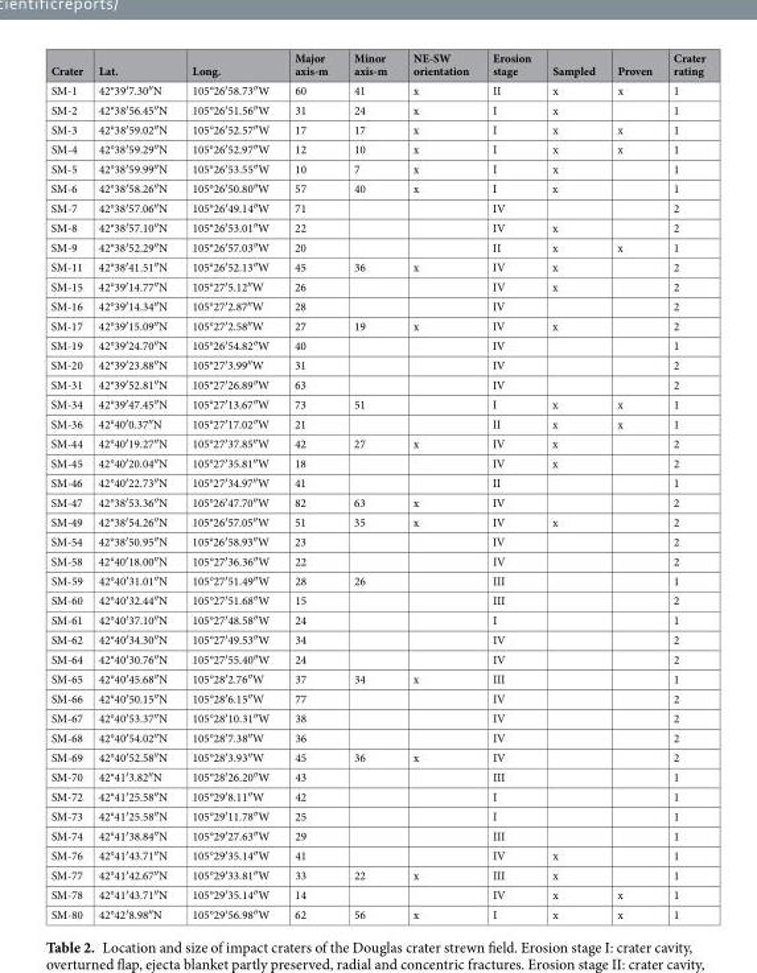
<table><thead><tr><td>Crater</td><td>Lat.</td><td>Long.</td><td>Major axis-m</td><td>Minor axis-m</td><td>NE-SW orientation</td><td>Erosion stage</td><td>Sampled</td><td>Proven</td><td>Crater rating</td></tr></thead><tbody><tr><td>SM-1</td><td>42°39′7.30″N</td><td>105°26′58.73″W</td><td>60</td><td>41</td><td>x</td><td>II</td><td>x</td><td>x</td><td>1</td></tr><tr><td>SM-2</td><td>42°38′56.45″N</td><td>105°26′51.56″W</td><td>31</td><td>24</td><td>x</td><td>I</td><td>x</td><td></td><td>1</td></tr><tr><td>SM-3</td><td>42°38′59.02″N</td><td>105°26′52.57″W</td><td>17</td><td>17</td><td>x</td><td>I</td><td>x</td><td>x</td><td>1</td></tr><tr><td>SM-4</td><td>42°38′59.29″N</td><td>105°26′52.97″W</td><td>12</td><td>10</td><td>x</td><td>I</td><td>x</td><td>x</td><td>1</td></tr><tr><td>SM-5</td><td>42°38′59.99″N</td><td>105°26′53.55″W</td><td>10</td><td>7</td><td>x</td><td>I</td><td>x</td><td></td><td>1</td></tr><tr><td>SM-6</td><td>42°38′58.26″N</td><td>105°26′50.80″W</td><td>57</td><td>40</td><td>x</td><td>I</td><td>x</td><td></td><td>1</td></tr><tr><td>SM-7</td><td>42°38′57.06″N</td><td>105°26′49.14″W</td><td>71</td><td></td><td></td><td>IV</td><td></td><td></td><td>2</td></tr><tr><td>SM-8</td><td>42°38′57.10″N</td><td>105°26′53.01″W</td><td>22</td><td></td><td></td><td>IV</td><td>x</td><td></td><td>2</td></tr><tr><td>SM-9</td><td>42°38′52.29″N</td><td>105°26′57.03″W</td><td>20</td><td></td><td></td><td>II</td><td>x</td><td>x</td><td>1</td></tr><tr><td>SM-11</td><td>42°38′41.51″N</td><td>105°26′52.13″W</td><td>45</td><td>36</td><td>x</td><td>IV</td><td>x</td><td></td><td>2</td></tr><tr><td>SM-15</td><td>42°39′14.77″N</td><td>105°27′5.12″W</td><td>26</td><td></td><td></td><td>IV</td><td>x</td><td></td><td>2</td></tr><tr><td>SM-16</td><td>42°39′14.34″N</td><td>105°27′2.87″W</td><td>28</td><td></td><td></td><td>IV</td><td></td><td></td><td>2</td></tr><tr><td>SM-17</td><td>42°39′15.09″N</td><td>105°27′2.58″W</td><td>27</td><td>19</td><td>x</td><td>IV</td><td>x</td><td></td><td>2</td></tr><tr><td>SM-19</td><td>42°39′24.70″N</td><td>105°26′54.82″W</td><td>40</td><td></td><td></td><td>IV</td><td></td><td></td><td>1</td></tr><tr><td>SM-20</td><td>42°39′23.88″N</td><td>105°27′3.99″W</td><td>31</td><td></td><td></td><td>IV</td><td></td><td></td><td>2</td></tr><tr><td>SM-31</td><td>42°39′52.81″N</td><td>105°27′26.89″W</td><td>63</td><td></td><td></td><td>IV</td><td></td><td></td><td>2</td></tr><tr><td>SM-34</td><td>42°39′47.45″N</td><td>105°27′13.67″W</td><td>73</td><td>51</td><td></td><td>I</td><td>x</td><td>x</td><td>1</td></tr><tr><td>SM-36</td><td>42°40′0.37″N</td><td>105°27′17.02″W</td><td>21</td><td></td><td></td><td>II</td><td>x</td><td>x</td><td>1</td></tr><tr><td>SM-44</td><td>42°40′19.27″N</td><td>105°27′37.85″W</td><td>42</td><td>27</td><td>x</td><td>IV</td><td>x</td><td></td><td>2</td></tr><tr><td>SM-45</td><td>42°40′20.04″N</td><td>105°27′35.81″W</td><td>18</td><td></td><td></td><td>IV</td><td>x</td><td></td><td>2</td></tr><tr><td>SM-46</td><td>42°40′22.73″N</td><td>105°27′34.97″W</td><td>41</td><td></td><td></td><td>II</td><td></td><td></td><td>1</td></tr><tr><td>SM-47</td><td>42°38′53.36″N</td><td>105°26′47.70″W</td><td>82</td><td>63</td><td>x</td><td>IV</td><td></td><td></td><td>2</td></tr><tr><td>SM-49</td><td>42°38′54.26″N</td><td>105°26′57.05″W</td><td>51</td><td>35</td><td>x</td><td>IV</td><td>x</td><td></td><td>2</td></tr><tr><td>SM-54</td><td>42°38′50.95″N</td><td>105°26′58.93″W</td><td>23</td><td></td><td></td><td>IV</td><td></td><td></td><td>2</td></tr><tr><td>SM-58</td><td>42°40′18.00″N</td><td>105°27′36.36″W</td><td>22</td><td></td><td></td><td>IV</td><td></td><td></td><td>2</td></tr><tr><td>SM-59</td><td>42°40′31.01″N</td><td>105°27′51.49″W</td><td>28</td><td>26</td><td></td><td>III</td><td></td><td></td><td>1</td></tr><tr><td>SM-60</td><td>42°40′32.44″N</td><td>105°27′51.68″W</td><td>15</td><td></td><td></td><td>III</td><td></td><td></td><td>2</td></tr><tr><td>SM-61</td><td>42°40′37.10″N</td><td>105°27′48.58″W</td><td>24</td><td></td><td></td><td>I</td><td></td><td></td><td>1</td></tr><tr><td>SM-62</td><td>42°40′34.30″N</td><td>105°27′49.53″W</td><td>34</td><td></td><td></td><td>IV</td><td></td><td></td><td>2</td></tr><tr><td>SM-64</td><td>42°40′30.76″N</td><td>105°27′55.40″W</td><td>24</td><td></td><td></td><td>IV</td><td></td><td></td><td>2</td></tr><tr><td>SM-65</td><td>42°40′45.68″N</td><td>105°28′2.76″W</td><td>37</td><td>34</td><td>x</td><td>III</td><td></td><td></td><td>1</td></tr><tr><td>SM-66</td><td>42°40′50.15″N</td><td>105°28′6.15″W</td><td>77</td><td></td><td></td><td>IV</td><td></td><td></td><td>2</td></tr><tr><td>SM-67</td><td>42°40′53.37″N</td><td>105°28′10.31″W</td><td>38</td><td></td><td></td><td>IV</td><td></td><td></td><td>2</td></tr><tr><td>SM-68</td><td>42°40′54.02″N</td><td>105°28′7.38″W</td><td>36</td><td></td><td></td><td>IV</td><td></td><td></td><td>2</td></tr><tr><td>SM-69</td><td>42°40′52.58″N</td><td>105°28′3.93″W</td><td>45</td><td>36</td><td>x</td><td>IV</td><td></td><td></td><td>2</td></tr><tr><td>SM-70</td><td>42°41′3.82″N</td><td>105°28′26.20″W</td><td>43</td><td></td><td></td><td>III</td><td></td><td></td><td>1</td></tr><tr><td>SM-72</td><td>42°41′25.58″N</td><td>105°29′8.11″W</td><td>42</td><td></td><td></td><td>I</td><td></td><td></td><td>1</td></tr><tr><td>SM-73</td><td>42°41′25.58″N</td><td>105°29′11.78″W</td><td>25</td><td></td><td></td><td>I</td><td></td><td></td><td>1</td></tr><tr><td>SM-74</td><td>42°41′38.84″N</td><td>105°29′27.63″W</td><td>29</td><td></td><td></td><td>III</td><td></td><td></td><td>1</td></tr><tr><td>SM-76</td><td>42°41′43.71″N</td><td>105°29′35.14″W</td><td>41</td><td></td><td></td><td>IV</td><td>x</td><td></td><td>1</td></tr><tr><td>SM-77</td><td>42°41′42.67″N</td><td>105°29′33.81″W</td><td>33</td><td>22</td><td>x</td><td>III</td><td>x</td><td></td><td>1</td></tr><tr><td>SM-78</td><td>42°41′43.71″N</td><td>105°29′35.14″W</td><td>14</td><td></td><td></td><td>IV</td><td>x</td><td>x</td><td>1</td></tr><tr><td>SM-80</td><td>42°42′8.98″N</td><td>105°29′56.98″W</td><td>62</td><td>56</td><td>x</td><td>I</td><td>x</td><td>x</td><td>1</td></tr></tbody></table>